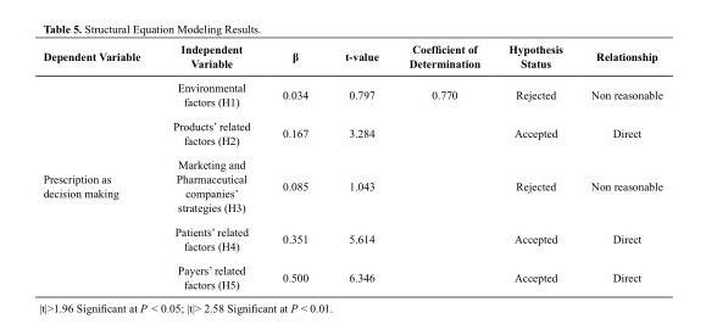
<table><thead><tr><td>Dependent Variable</td><td>Independent Variable</td><td>β</td><td>t-value</td><td>Coefficient of Determination</td><td>Hypothesis Status</td><td>Relationship</td></tr></thead><tbody><tr><td rowspan="5">Prescription as decision making</td><td>Environmental factors (H1)</td><td>0.034</td><td>0.797</td><td rowspan="5">0.770</td><td>Rejected</td><td>Non reasonable</td></tr><tr><td>Products’ related factors (H2)</td><td>0.167</td><td>3.284</td><td>Accepted</td><td>Direct</td></tr><tr><td>Marketing and Pharmaceutical companies’ strategies (H3)</td><td>0.085</td><td>1.043</td><td>Rejected</td><td>Non reasonable</td></tr><tr><td>Patients’ related factors (H4)</td><td>0.351</td><td>5.614</td><td>Accepted</td><td>Direct</td></tr><tr><td>Payers’ related factors (H5)</td><td>0.500</td><td>6.346</td><td>Accepted</td><td>Direct</td></tr></tbody></table>